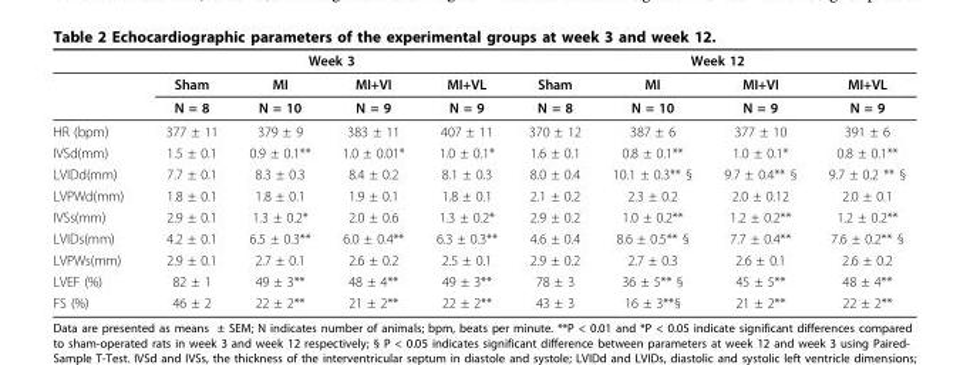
<table><thead><tr><td rowspan="2"></td><td colspan="4">Week 3</td><td colspan="4">Week 12</td></tr><tr><td>Sham</td><td>MI</td><td>MI+VI</td><td>MI+VL</td><td>Sham</td><td>MI</td><td>MI+VI</td><td>MI+VL</td></tr></thead><tbody><tr><td></td><td>N = 8</td><td>N = 10</td><td>N = 9</td><td>N = 9</td><td>N = 8</td><td>N = 10</td><td>N = 9</td><td>N = 9</td></tr><tr><td>HR (bpm)</td><td>377 ± 11</td><td>379 ± 9</td><td>383 ± 11</td><td>407 ± 11</td><td>370 ± 12</td><td>387 ± 6</td><td>377 ± 10</td><td>391 ± 6</td></tr><tr><td>IVSd(mm)</td><td>1.5 ± 0.1</td><td>0.9 ± 0.1**</td><td>1.0 ± 0.01*</td><td>1.0 ± 0.1*</td><td>1.6 ± 0.1</td><td>0.8 ± 0.1**</td><td>1.0 ± 0.1*</td><td>0.8 ± 0.1**</td></tr><tr><td>LVIDd(mm)</td><td>7.7 ± 0.1</td><td>8.3 ± 0.3</td><td>8.4 ± 0.2</td><td>8.1 ± 0.3</td><td>8.0 ± 0.4</td><td>10.1 ± 0.3** §</td><td>9.7 ± 0.4** §</td><td>9.7 ± 0.2 ** §</td></tr><tr><td>LVPWd(mm)</td><td>1.8 ± 0.1</td><td>1.8 ± 0.1</td><td>1.9 ± 0.1</td><td>1.8 ± 0.1</td><td>2.1 ± 0.2</td><td>2.3 ± 0.2</td><td>2.0 ± 0.12</td><td>2.0 ± 0.1</td></tr><tr><td>IVSs(mm)</td><td>2.9 ± 0.1</td><td>1.3 ± 0.2*</td><td>2.0 ± 0.6</td><td>1.3 ± 0.2*</td><td>2.9 ± 0.2</td><td>1.0 ± 0.2**</td><td>1.2 ± 0.2**</td><td>1.2 ± 0.2**</td></tr><tr><td>LVIDs(mm)</td><td>4.2 ± 0.1</td><td>6.5 ± 0.3**</td><td>6.0 ± 0.4**</td><td>6.3 ± 0.3**</td><td>4.6 ± 0.4</td><td>8.6 ± 0.5** §</td><td>7.7 ± 0.4**</td><td>7.6 ± 0.2** §</td></tr><tr><td>LVPWs(mm)</td><td>2.9 ± 0.1</td><td>2.7 ± 0.1</td><td>2.6 ± 0.2</td><td>2.5 ± 0.1</td><td>2.9 ± 0.2</td><td>2.7 ± 0.3</td><td>2.6 ± 0.1</td><td>2.6 ± 0.2</td></tr><tr><td>LVEF (%)</td><td>82 ± 1</td><td>49 ± 3**</td><td>48 ± 4**</td><td>49 ± 3**</td><td>78 ± 3</td><td>36 ± 5** §</td><td>45 ± 5**</td><td>48 ± 4**</td></tr><tr><td>FS (%)</td><td>46 ± 2</td><td>22 ± 2**</td><td>21 ± 2**</td><td>22 ± 2**</td><td>43 ± 3</td><td>16 ± 3**§</td><td>21 ± 2**</td><td>22 ± 2**</td></tr></tbody></table>